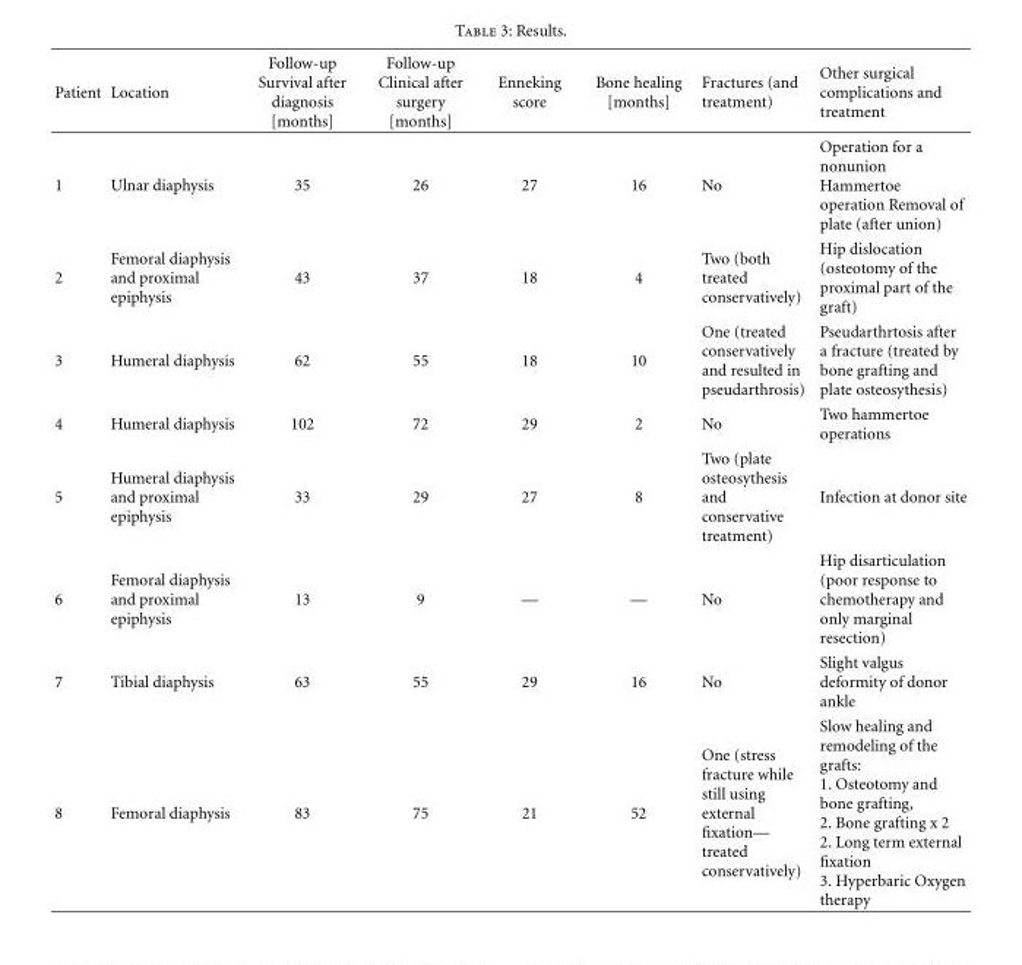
<table><thead><tr><td>Patient</td><td>Location</td><td>Follow-up Survival after diagnosis [months]</td><td>Follow-up Clinical after surgery [months]</td><td>Enneking score</td><td>Bone healing [months]</td><td>Fractures (and treatment)</td><td>Other surgical complications and treatment</td></tr></thead><tbody><tr><td>1</td><td>Ulnar diaphysis</td><td>35</td><td>26</td><td>27</td><td>16</td><td>No</td><td>Operation for a nonunion Hammertoe operation Removal of plate (after union)</td></tr><tr><td>2</td><td>Femoral diaphysis and proximal epiphysis</td><td>43</td><td>37</td><td>18</td><td>4</td><td>Two (both treated conservatively)</td><td>Hip dislocation (osteotomy of the proximal part of the graft)</td></tr><tr><td>3</td><td>Humeral diaphysis</td><td>62</td><td>55</td><td>18</td><td>10</td><td>One (treated conservatively and resulted in pseudarthrosis)</td><td>Pseudarthrtosis after a fracture (treated by bone grafting and plate osteosythesis)</td></tr><tr><td>4</td><td>Humeral diaphysis</td><td>102</td><td>72</td><td>29</td><td>2</td><td>No</td><td>Two hammertoe operations</td></tr><tr><td>5</td><td>Humeral diaphysis and proximal epiphysis</td><td>33</td><td>29</td><td>27</td><td>8</td><td>Two (plate osteosythesis and conservative treatment)</td><td>Infection at donor site</td></tr><tr><td>6</td><td>Femoral diaphysis and proximal epiphysis</td><td>13</td><td>9</td><td>—</td><td>—</td><td>No</td><td>Hip disarticulation (poor response to chemotherapy and only marginal resection)</td></tr><tr><td>7</td><td>Tibial diaphysis</td><td>63</td><td>55</td><td>29</td><td>16</td><td>No</td><td>Slight valgus deformity of donor ankle</td></tr><tr><td>8</td><td>Femoral diaphysis</td><td>83</td><td>75</td><td>21</td><td>52</td><td>One (stress fracture while still using external fixation— treated conservatively)</td><td>Slow healing and remodeling of the grafts: 1. Osteotomy and bone grafting, 2. Bone grafting x 2 2. Long term external fixation 3. Hyperbaric Oxygen therapy</td></tr></tbody></table>